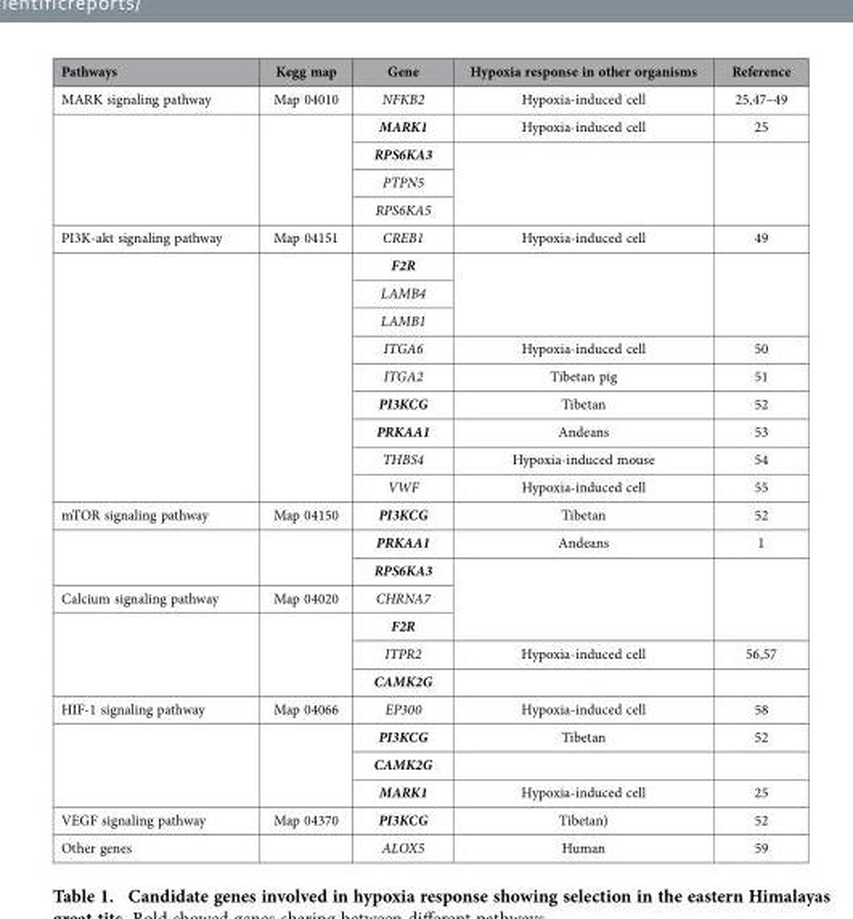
<table><thead><tr><td>Pathways</td><td>Kegg map</td><td>Gene</td><td>Hypoxia response in other organisms</td><td>Reference</td></tr></thead><tbody><tr><td rowspan="5">MARK signaling pathway</td><td>Map 04010</td><td>NFKB2</td><td>Hypoxia-induced cell</td><td>25,47–49</td></tr><tr><td rowspan="4"></td><td>MARK1</td><td>Hypoxia-induced cell</td><td>25</td></tr><tr><td>RPS6KA3</td><td rowspan="3"></td><td rowspan="3"></td></tr><tr><td>PTPN5</td></tr><tr><td>RPS6KA5</td></tr><tr><td rowspan="10">PI3K-akt signaling pathway</td><td>Map 04151</td><td>CREB1</td><td>Hypoxia-induced cell</td><td>49</td></tr><tr><td rowspan="9"></td><td>F2R</td><td rowspan="3"></td><td rowspan="3"></td></tr><tr><td>LAMB4</td></tr><tr><td>LAMB1</td></tr><tr><td>ITGA6</td><td>Hypoxia-induced cell</td><td>50</td></tr><tr><td>ITGA2</td><td>Tibetan pig</td><td>51</td></tr><tr><td>PI3KCG</td><td>Tibetan</td><td>52</td></tr><tr><td>PRKAA1</td><td>Andeans</td><td>53</td></tr><tr><td>THBS4</td><td>Hypoxia-induced mouse</td><td>54</td></tr><tr><td>VWF</td><td>Hypoxia-induced cell</td><td>55</td></tr><tr><td rowspan="3">mTOR signaling pathway</td><td>Map 04150</td><td>PI3KCG</td><td>Tibetan</td><td>52</td></tr><tr><td rowspan="2"></td><td>PRKAA1</td><td>Andeans</td><td>1</td></tr><tr><td>RPS6KA3</td><td rowspan="3"></td><td rowspan="3"></td></tr><tr><td rowspan="4">Calcium signaling pathway</td><td>Map 04020</td><td>CHRNA7</td></tr><tr><td rowspan="3"></td><td>F2R</td></tr><tr><td>ITPR2</td><td>Hypoxia-induced cell</td><td>56,57</td></tr><tr><td>CAMK2G</td><td></td><td></td></tr><tr><td rowspan="4">HIF-1 signaling pathway</td><td>Map 04066</td><td>EP300</td><td>Hypoxia-induced cell</td><td>58</td></tr><tr><td rowspan="3"></td><td>PI3KCG</td><td>Tibetan</td><td>52</td></tr><tr><td>CAMK2G</td><td></td><td></td></tr><tr><td>MARK1</td><td>Hypoxia-induced cell</td><td>25</td></tr><tr><td>VEGF signaling pathway</td><td>Map 04370</td><td>PI3KCG</td><td>Tibetan)</td><td>52</td></tr><tr><td>Other genes</td><td></td><td>ALOX5</td><td>Human</td><td>59</td></tr></tbody></table>